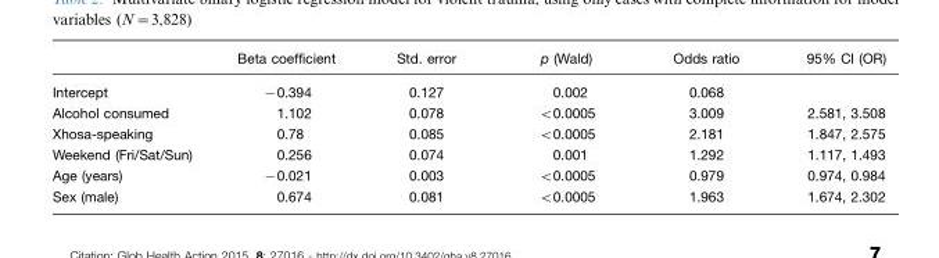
<table><thead><tr><td></td><td>Beta coefficient</td><td>Std. error</td><td>p (Wald)</td><td>Odds ratio</td><td>95% CI (OR)</td></tr></thead><tbody><tr><td>Intercept</td><td>−0.394</td><td>0.127</td><td>0.002</td><td>0.068</td><td></td></tr><tr><td>Alcohol consumed</td><td>1.102</td><td>0.078</td><td>&lt;0.0005</td><td>3.009</td><td>2.581, 3.508</td></tr><tr><td>Xhosa-speaking</td><td>0.78</td><td>0.085</td><td>&lt;0.0005</td><td>2.181</td><td>1.847, 2.575</td></tr><tr><td>Weekend (Fri/Sat/Sun)</td><td>0.256</td><td>0.074</td><td>0.001</td><td>1.292</td><td>1.117, 1.493</td></tr><tr><td>Age (years)</td><td>−0.021</td><td>0.003</td><td>&lt;0.0005</td><td>0.979</td><td>0.974, 0.984</td></tr><tr><td>Sex (male)</td><td>0.674</td><td>0.081</td><td>&lt;0.0005</td><td>1.963</td><td>1.674, 2.302</td></tr></tbody></table>